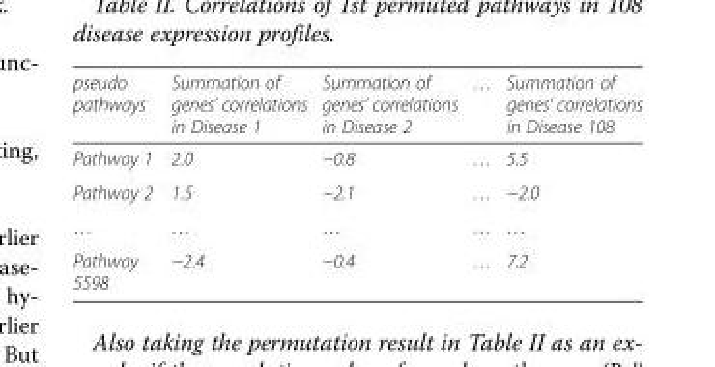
<table><thead><tr><td>pseudo pathways</td><td>Summation of genes’ correlations in Disease 1</td><td>Summation of genes’ correlations in Disease 2</td><td>…</td><td>Summation of genes’ correlations in Disease 108</td></tr></thead><tbody><tr><td>Pathway 1</td><td>2.0</td><td>−0.8</td><td>…</td><td>5.5</td></tr><tr><td>Pathway 2</td><td>1.5</td><td>−2.1</td><td>…</td><td>−2.0</td></tr><tr><td>…</td><td>…</td><td>…</td><td>…</td><td>…</td></tr><tr><td>Pathway 5598</td><td>−2.4</td><td>−0.4</td><td>…</td><td>7.2</td></tr></tbody></table>